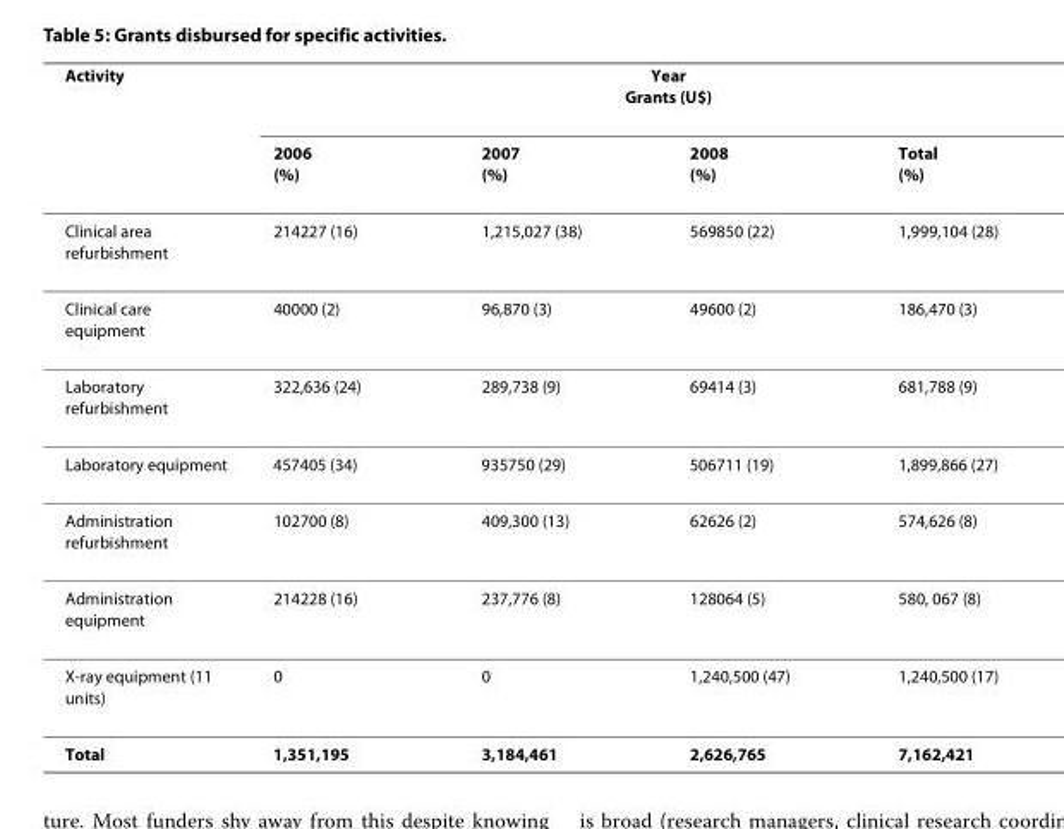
<table><thead><tr><td rowspan="2">Activity</td><td colspan="4">Year Grants (U$)</td></tr><tr><td>2006 (%)</td><td>2007 (%)</td><td>2008 (%)</td><td>Total (%)</td></tr></thead><tbody><tr><td>Clinical area refurbishment</td><td>214227 (16)</td><td>1,215,027 (38)</td><td>569850 (22)</td><td>1,999,104 (28)</td></tr><tr><td>Clinical care equipment</td><td>40000 (2)</td><td>96,870 (3)</td><td>49600 (2)</td><td>186,470 (3)</td></tr><tr><td>Laboratory refurbishment</td><td>322,636 (24)</td><td>289,738 (9)</td><td>69414 (3)</td><td>681,788 (9)</td></tr><tr><td>Laboratory equipment</td><td>457405 (34)</td><td>935750 (29)</td><td>506711 (19)</td><td>1,899,866 (27)</td></tr><tr><td>Administration refurbishment</td><td>102700 (8)</td><td>409,300 (13)</td><td>62626 (2)</td><td>574,626 (8)</td></tr><tr><td>Administration equipment</td><td>214228 (16)</td><td>237,776 (8)</td><td>128064 (5)</td><td>580, 067 (8)</td></tr><tr><td>X-ray equipment (11 units)</td><td>0</td><td>0</td><td>1,240,500 (47)</td><td>1,240,500 (17)</td></tr><tr><td>Total</td><td>1,351,195</td><td>3,184,461</td><td>2,626,765</td><td>7,162,421</td></tr></tbody></table>